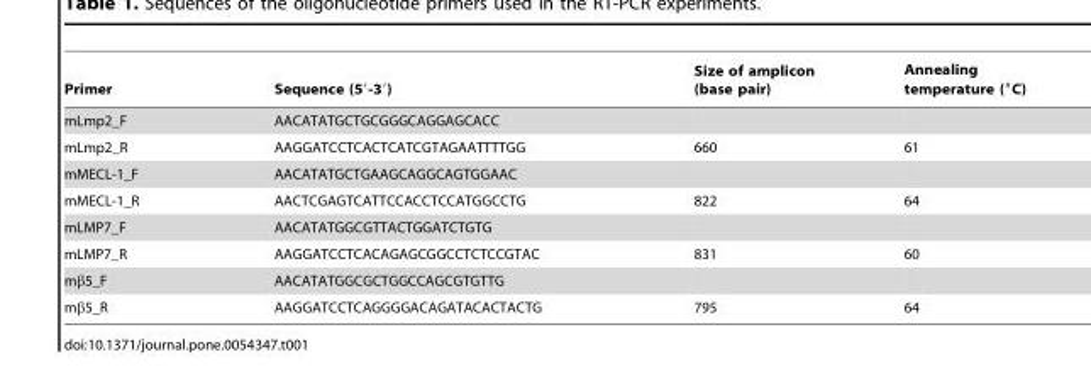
<table><thead><tr><td>Primer</td><td>Sequence (5′-3′)</td><td>Size of amplicon (base pair)</td><td>Annealing temperature (°C)</td></tr></thead><tbody><tr><td>mLmp2_F</td><td>AACATATGCTGCGGGCAGGAGCACC</td><td></td><td></td></tr><tr><td>mLmp2_R</td><td>AAGGATCCTCACTCATCGTAGAATTTTGG</td><td>660</td><td>61</td></tr><tr><td>mMECL-1_F</td><td>AACATATGCTGAAGCAGGCAGTGGAAC</td><td></td><td></td></tr><tr><td>mMECL-1_R</td><td>AACTCGAGTCATTCCACCTCCATGGCCTG</td><td>822</td><td>64</td></tr><tr><td>mLMP7_F</td><td>AACATATGGCGTTACTGGATCTGTG</td><td></td><td></td></tr><tr><td>mLMP7_R</td><td>AAGGATCCTCACAGAGCGGCCTCTCCGTAC</td><td>831</td><td>60</td></tr><tr><td>mβ5_F</td><td>AACATATGGCGCTGGCCAGCGTGTTG</td><td></td><td></td></tr><tr><td>mβ5_R</td><td>AAGGATCCTCAGGGGACAGATACACTACTG</td><td>795</td><td>64</td></tr></tbody></table>